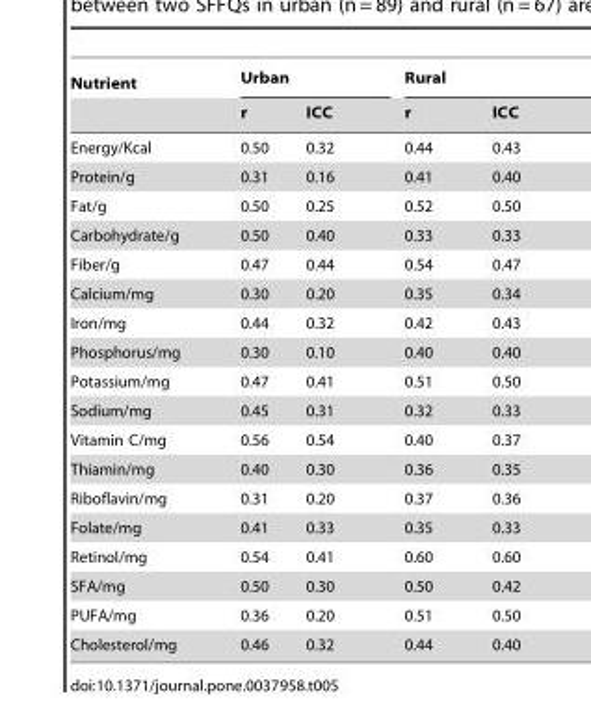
<table><thead><tr><td rowspan="2">Nutrient</td><td colspan="2">Urban</td><td colspan="2">Rural</td></tr><tr><td>r</td><td>ICC</td><td>r</td><td>ICC</td></tr></thead><tbody><tr><td>Energy/Kcal</td><td>0.50</td><td>0.32</td><td>0.44</td><td>0.43</td></tr><tr><td>Protein/g</td><td>0.31</td><td>0.16</td><td>0.41</td><td>0.40</td></tr><tr><td>Fat/g</td><td>0.50</td><td>0.25</td><td>0.52</td><td>0.50</td></tr><tr><td>Carbohydrate/g</td><td>0.50</td><td>0.40</td><td>0.33</td><td>0.33</td></tr><tr><td>Fiber/g</td><td>0.47</td><td>0.44</td><td>0.54</td><td>0.47</td></tr><tr><td>Calcium/mg</td><td>0.30</td><td>0.20</td><td>0.35</td><td>0.34</td></tr><tr><td>Iron/mg</td><td>0.44</td><td>0.32</td><td>0.42</td><td>0.43</td></tr><tr><td>Phosphorus/mg</td><td>0.30</td><td>0.10</td><td>0.40</td><td>0.40</td></tr><tr><td>Potassium/mg</td><td>0.47</td><td>0.41</td><td>0.51</td><td>0.50</td></tr><tr><td>Sodium/mg</td><td>0.45</td><td>0.31</td><td>0.32</td><td>0.33</td></tr><tr><td>Vitamin C/mg</td><td>0.56</td><td>0.54</td><td>0.40</td><td>0.37</td></tr><tr><td>Thiamin/mg</td><td>0.40</td><td>0.30</td><td>0.36</td><td>0.35</td></tr><tr><td>Riboflavin/mg</td><td>0.31</td><td>0.20</td><td>0.37</td><td>0.36</td></tr><tr><td>Folate/mg</td><td>0.41</td><td>0.33</td><td>0.35</td><td>0.33</td></tr><tr><td>Retinol/mg</td><td>0.54</td><td>0.41</td><td>0.60</td><td>0.60</td></tr><tr><td>SFA/mg</td><td>0.50</td><td>0.30</td><td>0.50</td><td>0.42</td></tr><tr><td>PUFA/mg</td><td>0.36</td><td>0.20</td><td>0.51</td><td>0.50</td></tr><tr><td>Cholesterol/mg</td><td>0.46</td><td>0.32</td><td>0.44</td><td>0.40</td></tr></tbody></table>